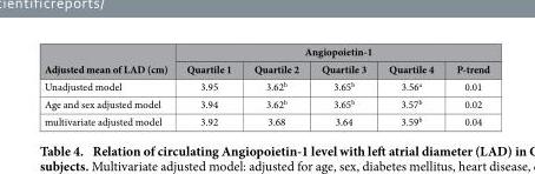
<table><thead><tr><td rowspan="2">Adjusted mean of LAD (cm)</td><td colspan="5">Angiopoietin-1</td></tr><tr><td>Quartile 1</td><td>Quartile 2</td><td>Quartile 3</td><td>Quartile 4</td><td>P-trend</td></tr></thead><tbody><tr><td>Unadjusted model</td><td>3.95</td><td>3.62<sup>b</sup></td><td>3.65<sup>b</sup></td><td>3.56<sup>a</sup></td><td>0.01</td></tr><tr><td>Age and sex adjusted model</td><td>3.94</td><td>3.62<sup>b</sup></td><td>3.65<sup>b</sup></td><td>3.57<sup>b</sup></td><td>0.02</td></tr><tr><td>multivariate adjusted model</td><td>3.92</td><td>3.68</td><td>3.64</td><td>3.59<sup>b</sup></td><td>0.04</td></tr></tbody></table>